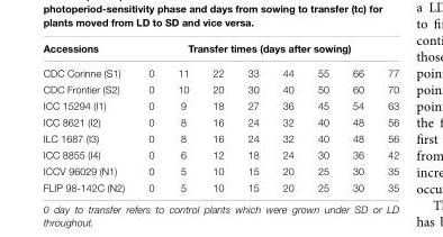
<table><thead><tr><td rowspan="2">Accessions CDC Corinne (S1)</td><td colspan="8">Transfer times (days after sowing)</td></tr><tr><td>0</td><td>11</td><td>22</td><td>33</td><td>44</td><td>55</td><td>66</td><td>77</td></tr></thead><tbody><tr><td>CDC Frontier (S2)</td><td>0</td><td>10</td><td>20</td><td>30</td><td>40</td><td>50</td><td>60</td><td>70</td></tr><tr><td>ICC 15294 (I1)</td><td>0</td><td>9</td><td>18</td><td>27</td><td>36</td><td>45</td><td>54</td><td>63</td></tr><tr><td>ICC 8621 (I2)</td><td>0</td><td>8</td><td>16</td><td>24</td><td>32</td><td>40</td><td>48</td><td>56</td></tr><tr><td>ILC 1687 (I3)</td><td>0</td><td>8</td><td>16</td><td>24</td><td>32</td><td>40</td><td>48</td><td>56</td></tr><tr><td>ICC 8855 (I4)</td><td>0</td><td>6</td><td>12</td><td>18</td><td>24</td><td>30</td><td>36</td><td>42</td></tr><tr><td>ICCV 96029 (N1)</td><td>0</td><td>5</td><td>10</td><td>15</td><td>20</td><td>25</td><td>30</td><td>35</td></tr><tr><td>FLIP 98-142C (N2)</td><td>0</td><td>5</td><td>10</td><td>15</td><td>20</td><td>25</td><td>30</td><td>35</td></tr></tbody></table>